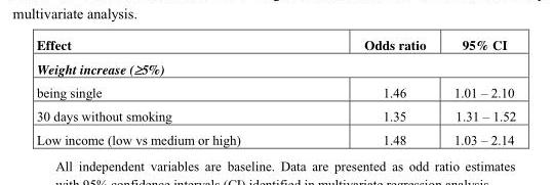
<table><thead><tr><td>Effect</td><td>Odds ratio</td><td>95% CI</td></tr></thead><tbody><tr><td colspan="3">Weight increase (≥5%)</td></tr><tr><td>being single</td><td>1.46</td><td>1.01 – 2.10</td></tr><tr><td>30 days without smoking</td><td>1.35</td><td>1.31 – 1.52</td></tr><tr><td>Low income (low vs medium or high)</td><td>1.48</td><td>1.03 – 2.14</td></tr></tbody></table>